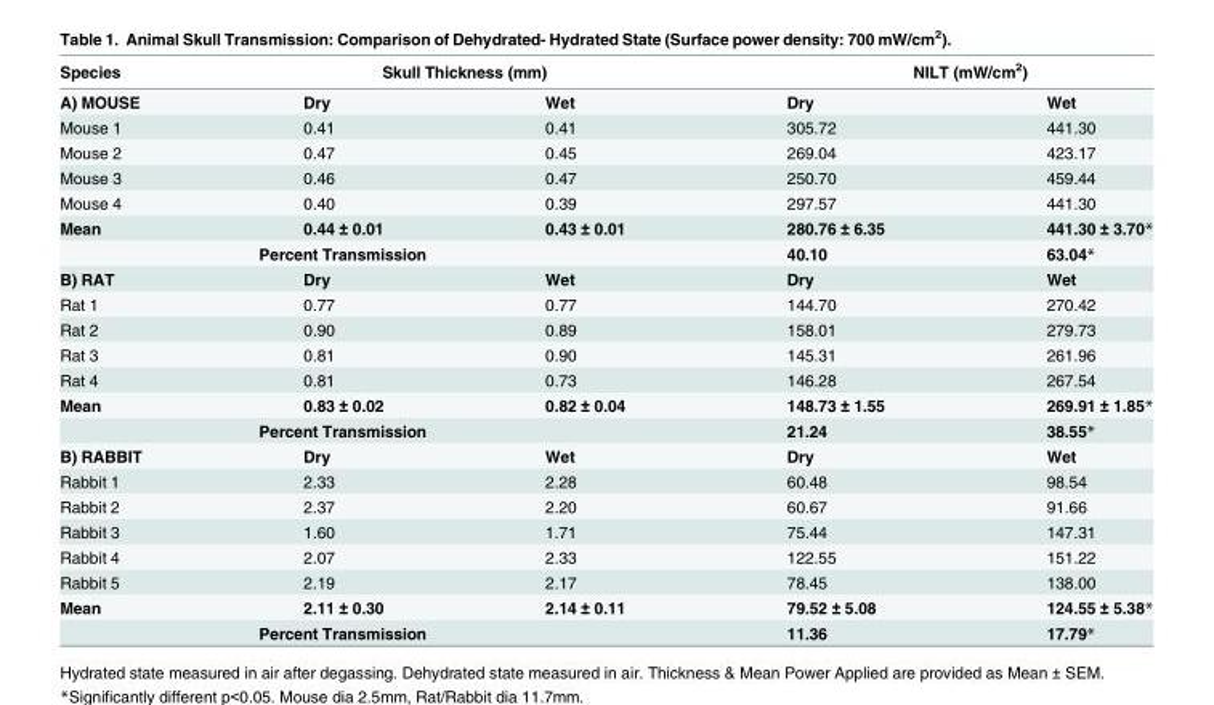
<table><thead><tr><td rowspan="2">Species A) MOUSE</td><td colspan="2">Skull Thickness (mm)</td><td colspan="2">NILT (mW/cm<sup>2</sup>)</td></tr><tr><td>Dry</td><td>Wet</td><td>Dry</td><td>Wet</td></tr></thead><tbody><tr><td>Mouse 1</td><td>0.41</td><td>0.41</td><td>305.72</td><td>441.30</td></tr><tr><td>Mouse 2</td><td>0.47</td><td>0.45</td><td>269.04</td><td>423.17</td></tr><tr><td>Mouse 3</td><td>0.46</td><td>0.47</td><td>250.70</td><td>459.44</td></tr><tr><td>Mouse 4</td><td>0.40</td><td>0.39</td><td>297.57</td><td>441.30</td></tr><tr><td>Mean</td><td>0.44 ± 0.01</td><td>0.43 ± 0.01</td><td>280.76 ± 6.35</td><td>441.30 ± 3.70*</td></tr><tr><td colspan="3">Percent Transmission</td><td>40.10</td><td>63.04*</td></tr><tr><td>B) RAT</td><td>Dry</td><td>Wet</td><td>Dry</td><td>Wet</td></tr><tr><td>Rat 1</td><td>0.77</td><td>0.77</td><td>144.70</td><td>270.42</td></tr><tr><td>Rat 2</td><td>0.90</td><td>0.89</td><td>158.01</td><td>279.73</td></tr><tr><td>Rat 3</td><td>0.81</td><td>0.90</td><td>145.31</td><td>261.96</td></tr><tr><td>Rat 4</td><td>0.81</td><td>0.73</td><td>146.28</td><td>267.54</td></tr><tr><td>Mean</td><td>0.83 ± 0.02</td><td>0.82 ± 0.04</td><td>148.73 ± 1.55</td><td>269.91 ± 1.85*</td></tr><tr><td colspan="3">Percent Transmission</td><td>21.24</td><td>38.55*</td></tr><tr><td>B) RABBIT</td><td>Dry</td><td>Wet</td><td>Dry</td><td>Wet</td></tr><tr><td>Rabbit 1</td><td>2.33</td><td>2.28</td><td>60.48</td><td>98.54</td></tr><tr><td>Rabbit 2</td><td>2.37</td><td>2.20</td><td>60.67</td><td>91.66</td></tr><tr><td>Rabbit 3</td><td>1.60</td><td>1.71</td><td>75.44</td><td>147.31</td></tr><tr><td>Rabbit 4</td><td>2.07</td><td>2.33</td><td>122.55</td><td>151.22</td></tr><tr><td>Rabbit 5</td><td>2.19</td><td>2.17</td><td>78.45</td><td>138.00</td></tr><tr><td>Mean</td><td>2.11 ± 0.30</td><td>2.14 ± 0.11</td><td>79.52 ± 5.08</td><td>124.55 ± 5.38*</td></tr><tr><td colspan="3">Percent Transmission</td><td>11.36</td><td>17.79*</td></tr></tbody></table>